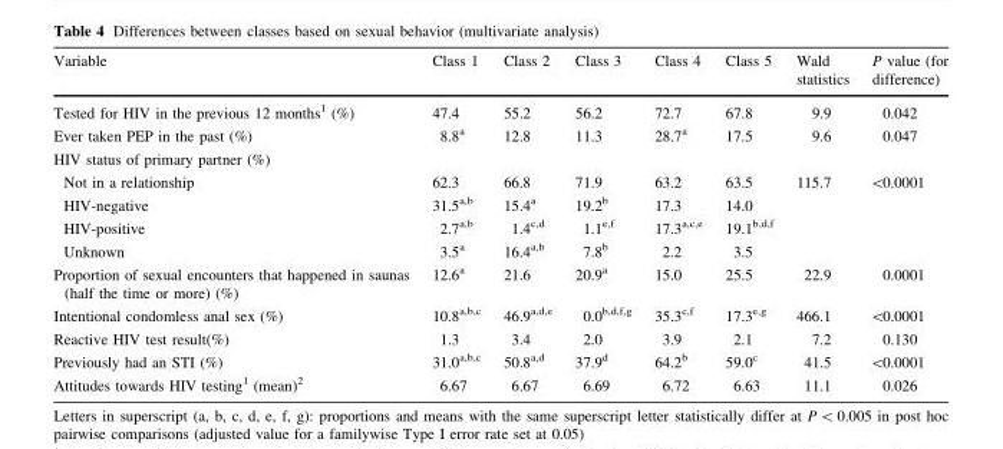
<table><thead><tr><td>Variable</td><td>Class 1</td><td>Class 2</td><td>Class 3</td><td>Class 4</td><td>Class 5</td><td>Wald statistics</td><td>P value (for difference)</td></tr></thead><tbody><tr><td>Tested for HIV in the previous 12 months<sup>1</sup> (%)</td><td>47.4</td><td>55.2</td><td>56.2</td><td>72.7</td><td>67.8</td><td>9.9</td><td>0.042</td></tr><tr><td>Ever taken PEP in the past (%)</td><td>8.8<sup>a</sup></td><td>12.8</td><td>11.3</td><td>28.7<sup>a</sup></td><td>17.5</td><td>9.6</td><td>0.047</td></tr><tr><td colspan="8">HIV status of primary partner (%)</td></tr><tr><td>Not in a relationship</td><td>62.3</td><td>66.8</td><td>71.9</td><td>63.2</td><td>63.5</td><td rowspan="4">115.7</td><td rowspan="4">&lt;0.0001</td></tr><tr><td>HIV-negative</td><td>31.5<sup>a,b</sup></td><td>15.4<sup>a</sup></td><td>19.2<sup>b</sup></td><td>17.3</td><td>14.0</td></tr><tr><td>HIV-positive</td><td>2.7<sup>a,b</sup></td><td>1.4<sup>c,d</sup></td><td>1.1<sup>e,f</sup></td><td>17.3<sup>a,c,e</sup></td><td>19.1<sup>b,d,f</sup></td></tr><tr><td>Unknown</td><td>3.5<sup>a</sup></td><td>16.4<sup>a,b</sup></td><td>7.8<sup>b</sup></td><td>2.2</td><td>3.5</td></tr><tr><td>Proportion of sexual encounters that happened in saunas (half the time or more) (%)</td><td>12.6<sup>a</sup></td><td>21.6</td><td>20.9<sup>a</sup></td><td>15.0</td><td>25.5</td><td>22.9</td><td>0.0001</td></tr><tr><td>Intentional condomless anal sex (%)</td><td>10.8<sup>a,b,c</sup></td><td>46.9<sup>a,d,e</sup></td><td>0.0<sup>b,d,f,g</sup></td><td>35.3<sup>c,f</sup></td><td>17.3<sup>e,g</sup></td><td>466.1</td><td>&lt;0.0001</td></tr><tr><td>Reactive HIV test result(%)</td><td>1.3</td><td>3.4</td><td>2.0</td><td>3.9</td><td>2.1</td><td>7.2</td><td>0.130</td></tr><tr><td>Previously had an STI (%)</td><td>31.0<sup>a,b,c</sup></td><td>50.8<sup>a,d</sup></td><td>37.9<sup>d</sup></td><td>64.2<sup>b</sup></td><td>59.0<sup>c</sup></td><td>41.5</td><td>&lt;0.0001</td></tr><tr><td>Attitudes towards HIV testing<sup>1</sup> (mean)<sup>2</sup></td><td>6.67</td><td>6.67</td><td>6.69</td><td>6.72</td><td>6.63</td><td>11.1</td><td>0.026</td></tr></tbody></table>